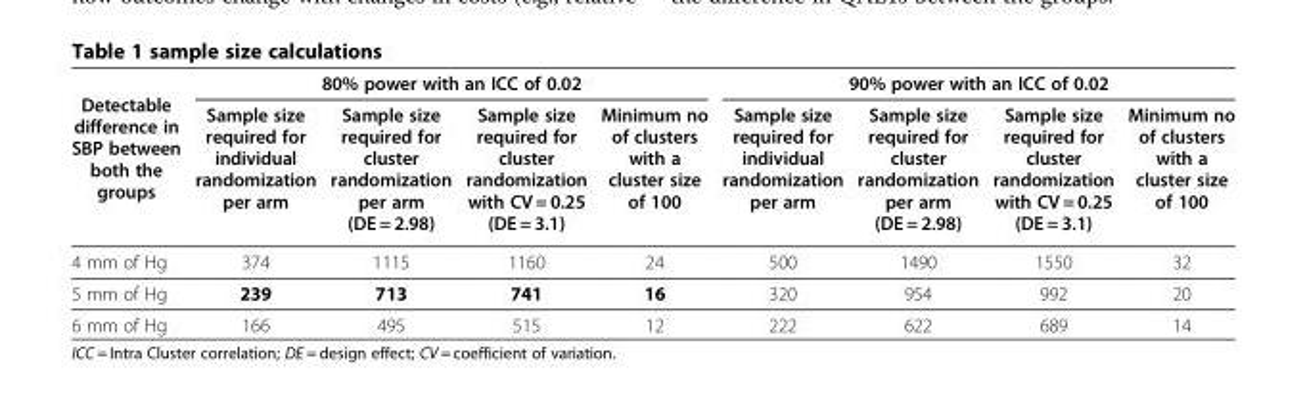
<table><thead><tr><td rowspan="2">Detectable difference in SBP between both the groups</td><td colspan="4">80% power with an ICC of 0.02</td><td colspan="4">90% power with an ICC of 0.02</td></tr><tr><td>Sample size required for individual randomization per arm</td><td>Sample size required for cluster randomization per arm (DE = 2.98)</td><td>Sample size required for cluster randomization with CV = 0.25 (DE = 3.1)</td><td>Minimum no of clusters with a cluster size of 100</td><td>Sample size required for individual randomization per arm</td><td>Sample size required for cluster randomization per arm (DE = 2.98)</td><td>Sample size required for cluster randomization with CV = 0.25 (DE = 3.1)</td><td>Minimum no of clusters with a cluster size of 100</td></tr></thead><tbody><tr><td>4 mm of Hg</td><td>374</td><td>1115</td><td>1160</td><td>24</td><td>500</td><td>1490</td><td>1550</td><td>32</td></tr><tr><td>5 mm of Hg</td><td>239</td><td>713</td><td>741</td><td>16</td><td>320</td><td>954</td><td>992</td><td>20</td></tr><tr><td>6 mm of Hg</td><td>166</td><td>495</td><td>515</td><td>12</td><td>222</td><td>622</td><td>689</td><td>14</td></tr></tbody></table>